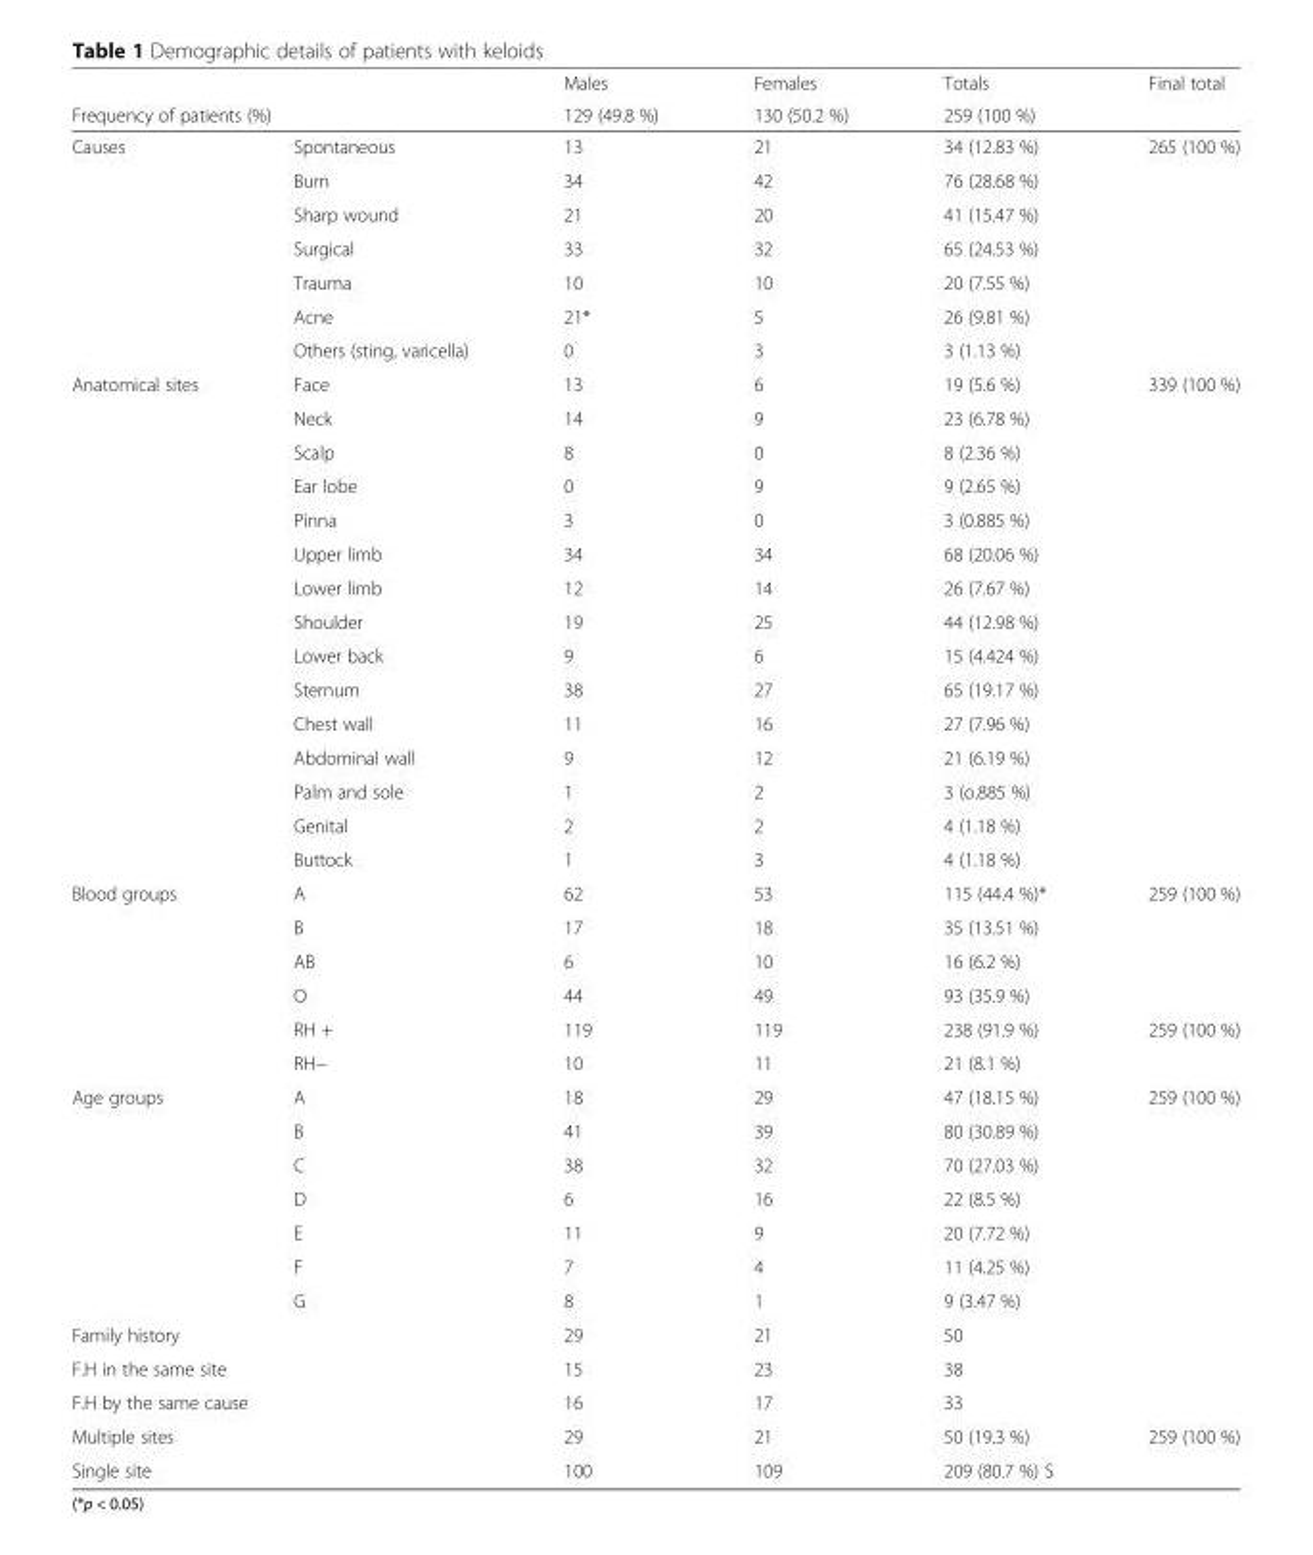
<table><thead><tr><td></td><td></td><td rowspan="2">Males 129 (49.8 %)</td><td rowspan="2">Females 130 (50.2 %)</td><td rowspan="2">Totals 259 (100 %)</td><td rowspan="2">Final total</td></tr><tr><td colspan="2">Frequency of patients (%)</td></tr></thead><tbody><tr><td rowspan="7">Causes</td><td>Spontaneous</td><td>13</td><td>21</td><td>34 (12.83 %)</td><td rowspan="7">265 (100 %)</td></tr><tr><td>Burn</td><td>34</td><td>42</td><td>76 (28.68 %)</td></tr><tr><td>Sharp wound</td><td>21</td><td>20</td><td>41 (15.47 %)</td></tr><tr><td>Surgical</td><td>33</td><td>32</td><td>65 (24.53 %)</td></tr><tr><td>Trauma</td><td>10</td><td>10</td><td>20 (7.55 %)</td></tr><tr><td>Acne</td><td>21*</td><td>5</td><td>26 (9.81 %)</td></tr><tr><td>Others (sting, varicella)</td><td>0</td><td>3</td><td>3 (1.13 %)</td></tr><tr><td rowspan="15">Anatomical sites</td><td>Face</td><td>13</td><td>6</td><td>19 (5.6 %)</td><td rowspan="15">339 (100 %)</td></tr><tr><td>Neck</td><td>14</td><td>9</td><td>23 (6.78 %)</td></tr><tr><td>Scalp</td><td>8</td><td>0</td><td>8 (2.36 %)</td></tr><tr><td>Ear lobe</td><td>0</td><td>9</td><td>9 (2.65 %)</td></tr><tr><td>Pinna</td><td>3</td><td>0</td><td>3 (0.885 %)</td></tr><tr><td>Upper limb</td><td>34</td><td>34</td><td>68 (20.06 %)</td></tr><tr><td>Lower limb</td><td>12</td><td>14</td><td>26 (7.67 %)</td></tr><tr><td>Shoulder</td><td>19</td><td>25</td><td>44 (12.98 %)</td></tr><tr><td>Lower back</td><td>9</td><td>6</td><td>15 (4.424 %)</td></tr><tr><td>Sternum</td><td>38</td><td>27</td><td>65 (19.17 %)</td></tr><tr><td>Chest wall</td><td>11</td><td>16</td><td>27 (7.96 %)</td></tr><tr><td>Abdominal wall</td><td>9</td><td>12</td><td>21 (6.19 %)</td></tr><tr><td>Palm and sole</td><td>1</td><td>2</td><td>3 (o.885 %)</td></tr><tr><td>Genital</td><td>2</td><td>2</td><td>4 (1.18 %)</td></tr><tr><td>Buttock</td><td>1</td><td>3</td><td>4 (1.18 %)</td></tr><tr><td rowspan="6">Blood groups</td><td>A</td><td>62</td><td>53</td><td>115 (44.4 %)*</td><td rowspan="4">259 (100 %)</td></tr><tr><td>B</td><td>17</td><td>18</td><td>35 (13.51 %)</td></tr><tr><td>AB</td><td>6</td><td>10</td><td>16 (6.2 %)</td></tr><tr><td>O</td><td>44</td><td>49</td><td>93 (35.9 %)</td></tr><tr><td>RH +</td><td>119</td><td>119</td><td>238 (91.9 %)</td><td rowspan="2">259 (100 %)</td></tr><tr><td>RH−</td><td>10</td><td>11</td><td>21 (8.1 %)</td></tr><tr><td rowspan="7">Age groups</td><td>A</td><td>18</td><td>29</td><td>47 (18.15 %)</td><td rowspan="7">259 (100 %)</td></tr><tr><td>B</td><td>41</td><td>39</td><td>80 (30.89 %)</td></tr><tr><td>C</td><td>38</td><td>32</td><td>70 (27.03 %)</td></tr><tr><td>D</td><td>6</td><td>16</td><td>22 (8.5 %)</td></tr><tr><td>E</td><td>11</td><td>9</td><td>20 (7.72 %)</td></tr><tr><td>F</td><td>7</td><td>4</td><td>11 (4.25 %)</td></tr><tr><td>G</td><td>8</td><td>1</td><td>9 (3.47 %)</td></tr><tr><td colspan="2">Family history</td><td>29</td><td>21</td><td>50</td><td></td></tr><tr><td colspan="2">F.H in the same site</td><td>15</td><td>23</td><td>38</td><td></td></tr><tr><td colspan="2">F.H by the same cause</td><td>16</td><td>17</td><td>33</td><td></td></tr><tr><td colspan="2">Multiple sites</td><td>29</td><td>21</td><td>50 (19.3 %)</td><td rowspan="2">259 (100 %)</td></tr><tr><td colspan="2">Single site</td><td>100</td><td>109</td><td>209 (80.7 %) S</td></tr></tbody></table>